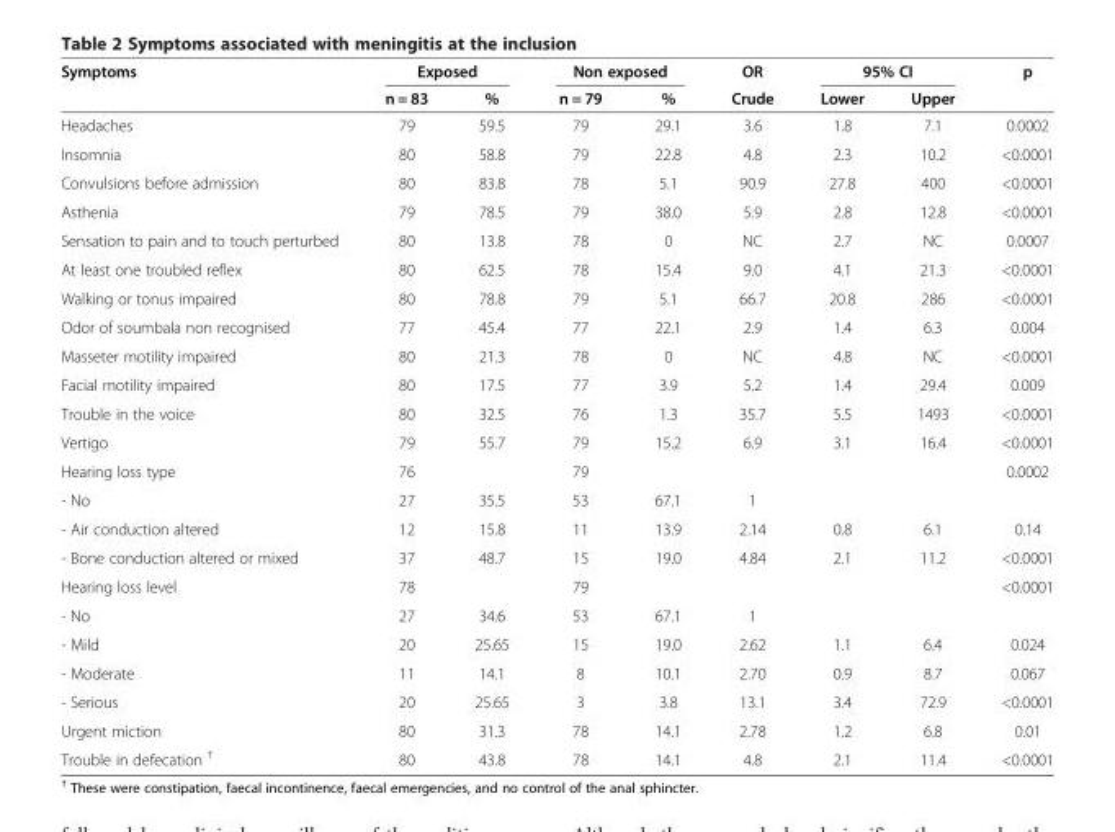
<table><thead><tr><td rowspan="2">Symptoms</td><td colspan="2">Exposed</td><td colspan="2">Non exposed</td><td rowspan="2">OR Crude</td><td colspan="2">95% CI</td><td rowspan="2">p</td></tr><tr><td>n = 83</td><td>%</td><td>n = 79</td><td>%</td><td>Lower</td><td>Upper</td></tr></thead><tbody><tr><td>Headaches</td><td>79</td><td>59.5</td><td>79</td><td>29.1</td><td>3.6</td><td>1.8</td><td>7.1</td><td>0.0002</td></tr><tr><td>Insomnia</td><td>80</td><td>58.8</td><td>79</td><td>22.8</td><td>4.8</td><td>2.3</td><td>10.2</td><td>&lt;0.0001</td></tr><tr><td>Convulsions before admission</td><td>80</td><td>83.8</td><td>78</td><td>5.1</td><td>90.9</td><td>27.8</td><td>400</td><td>&lt;0.0001</td></tr><tr><td>Asthenia</td><td>79</td><td>78.5</td><td>79</td><td>38.0</td><td>5.9</td><td>2.8</td><td>12.8</td><td>&lt;0.0001</td></tr><tr><td>Sensation to pain and to touch perturbed</td><td>80</td><td>13.8</td><td>78</td><td>0</td><td>NC</td><td>2.7</td><td>NC</td><td>0.0007</td></tr><tr><td>At least one troubled reflex</td><td>80</td><td>62.5</td><td>78</td><td>15.4</td><td>9.0</td><td>4.1</td><td>21.3</td><td>&lt;0.0001</td></tr><tr><td>Walking or tonus impaired</td><td>80</td><td>78.8</td><td>79</td><td>5.1</td><td>66.7</td><td>20.8</td><td>286</td><td>&lt;0.0001</td></tr><tr><td>Odor of soumbala non recognised</td><td>77</td><td>45.4</td><td>77</td><td>22.1</td><td>2.9</td><td>1.4</td><td>6.3</td><td>0.004</td></tr><tr><td>Masseter motility impaired</td><td>80</td><td>21.3</td><td>78</td><td>0</td><td>NC</td><td>4.8</td><td>NC</td><td>&lt;0.0001</td></tr><tr><td>Facial motility impaired</td><td>80</td><td>17.5</td><td>77</td><td>3.9</td><td>5.2</td><td>1.4</td><td>29.4</td><td>0.009</td></tr><tr><td>Trouble in the voice</td><td>80</td><td>32.5</td><td>76</td><td>1.3</td><td>35.7</td><td>5.5</td><td>1493</td><td>&lt;0.0001</td></tr><tr><td>Vertigo</td><td>79</td><td>55.7</td><td>79</td><td>15.2</td><td>6.9</td><td>3.1</td><td>16.4</td><td>&lt;0.0001</td></tr><tr><td>Hearing loss type</td><td>76</td><td></td><td>79</td><td></td><td></td><td></td><td></td><td>0.0002</td></tr><tr><td>- No</td><td>27</td><td>35.5</td><td>53</td><td>67.1</td><td>1</td><td></td><td></td><td></td></tr><tr><td>- Air conduction altered</td><td>12</td><td>15.8</td><td>11</td><td>13.9</td><td>2.14</td><td>0.8</td><td>6.1</td><td>0.14</td></tr><tr><td>- Bone conduction altered or mixed</td><td>37</td><td>48.7</td><td>15</td><td>19.0</td><td>4.84</td><td>2.1</td><td>11.2</td><td>&lt;0.0001</td></tr><tr><td>Hearing loss level</td><td>78</td><td></td><td>79</td><td></td><td></td><td></td><td></td><td>&lt;0.0001</td></tr><tr><td>- No</td><td>27</td><td>34.6</td><td>53</td><td>67.1</td><td>1</td><td></td><td></td><td></td></tr><tr><td>- Mild</td><td>20</td><td>25.65</td><td>15</td><td>19.0</td><td>2.62</td><td>1.1</td><td>6.4</td><td>0.024</td></tr><tr><td>- Moderate</td><td>11</td><td>14.1</td><td>8</td><td>10.1</td><td>2.70</td><td>0.9</td><td>8.7</td><td>0.067</td></tr><tr><td>- Serious</td><td>20</td><td>25.65</td><td>3</td><td>3.8</td><td>13.1</td><td>3.4</td><td>72.9</td><td>&lt;0.0001</td></tr><tr><td>Urgent miction</td><td>80</td><td>31.3</td><td>78</td><td>14.1</td><td>2.78</td><td>1.2</td><td>6.8</td><td>0.01</td></tr><tr><td>Trouble in defecation <sup>†</sup></td><td>80</td><td>43.8</td><td>78</td><td>14.1</td><td>4.8</td><td>2.1</td><td>11.4</td><td>&lt;0.0001</td></tr></tbody></table>